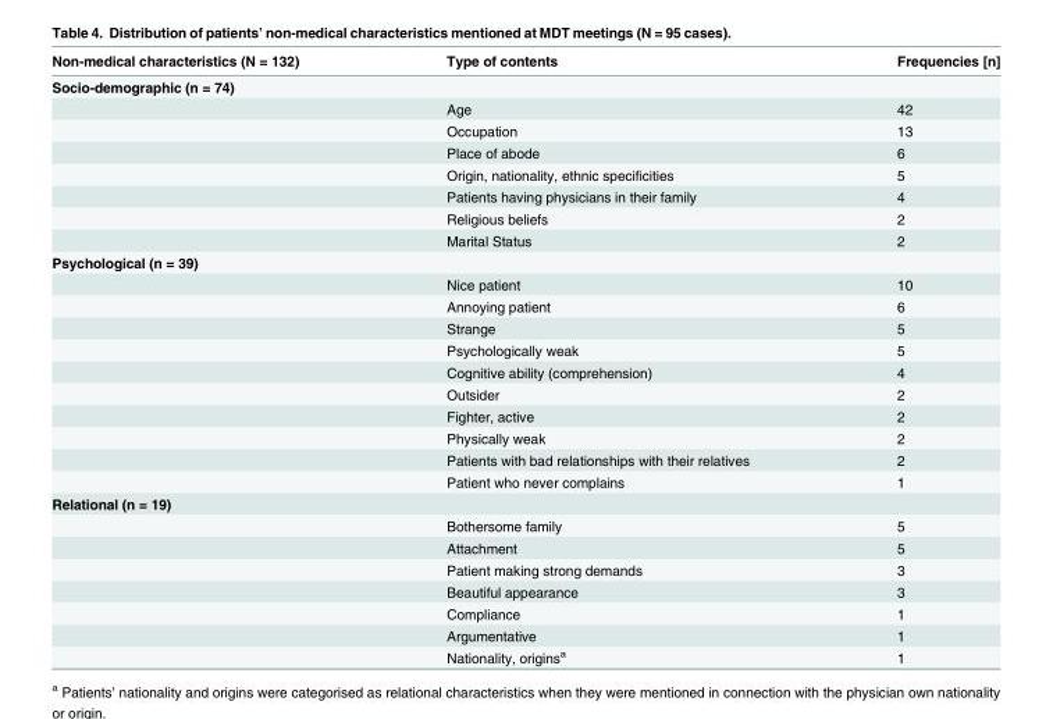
<table><thead><tr><td>Non-medical characteristics (N = 132)</td><td>Type of contents</td><td>Frequencies [n]</td></tr></thead><tbody><tr><td colspan="3">Socio-demographic (n = 74)</td></tr><tr><td></td><td>Age</td><td>42</td></tr><tr><td></td><td>Occupation</td><td>13</td></tr><tr><td></td><td>Place of abode</td><td>6</td></tr><tr><td></td><td>Origin, nationality, ethnic specificities</td><td>5</td></tr><tr><td></td><td>Patients having physicians in their family</td><td>4</td></tr><tr><td></td><td>Religious beliefs</td><td>2</td></tr><tr><td></td><td>Marital Status</td><td>2</td></tr><tr><td colspan="3">Psychological (n = 39)</td></tr><tr><td></td><td>Nice patient</td><td>10</td></tr><tr><td></td><td>Annoying patient</td><td>6</td></tr><tr><td></td><td>Strange</td><td>5</td></tr><tr><td></td><td>Psychologically weak</td><td>5</td></tr><tr><td></td><td>Cognitive ability (comprehension)</td><td>4</td></tr><tr><td></td><td>Outsider</td><td>2</td></tr><tr><td></td><td>Fighter, active</td><td>2</td></tr><tr><td></td><td>Physically weak</td><td>2</td></tr><tr><td></td><td>Patients with bad relationships with their relatives</td><td>2</td></tr><tr><td></td><td>Patient who never complains</td><td>1</td></tr><tr><td colspan="3">Relational (n = 19)</td></tr><tr><td></td><td>Bothersome family</td><td>5</td></tr><tr><td></td><td>Attachment</td><td>5</td></tr><tr><td></td><td>Patient making strong demands</td><td>3</td></tr><tr><td></td><td>Beautiful appearance</td><td>3</td></tr><tr><td></td><td>Compliance</td><td>1</td></tr><tr><td></td><td>Argumentative</td><td>1</td></tr><tr><td></td><td>Nationality, origins<sup>a</sup></td><td>1</td></tr></tbody></table>